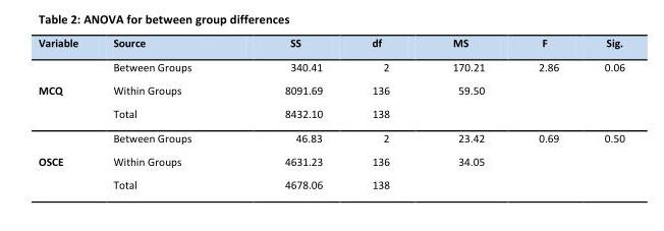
<table><thead><tr><td>Variable</td><td>Source</td><td>SS</td><td>df</td><td>MS</td><td>F</td><td>Sig.</td></tr></thead><tbody><tr><td rowspan="3">MCQ</td><td>Between Groups</td><td>340.41</td><td>2</td><td>170.21</td><td>2.86</td><td>0.06</td></tr><tr><td>Within Groups</td><td>8091.69</td><td>136</td><td>59.50</td><td></td><td></td></tr><tr><td>Total</td><td>8432.10</td><td>138</td><td></td><td></td><td></td></tr><tr><td rowspan="3">OSCE</td><td>Between Groups</td><td>46.83</td><td>2</td><td>23.42</td><td>0.69</td><td>0.50</td></tr><tr><td>Within Groups</td><td>4631.23</td><td>136</td><td>34.05</td><td></td><td></td></tr><tr><td>Total</td><td>4678.06</td><td>138</td><td></td><td></td><td></td></tr></tbody></table>